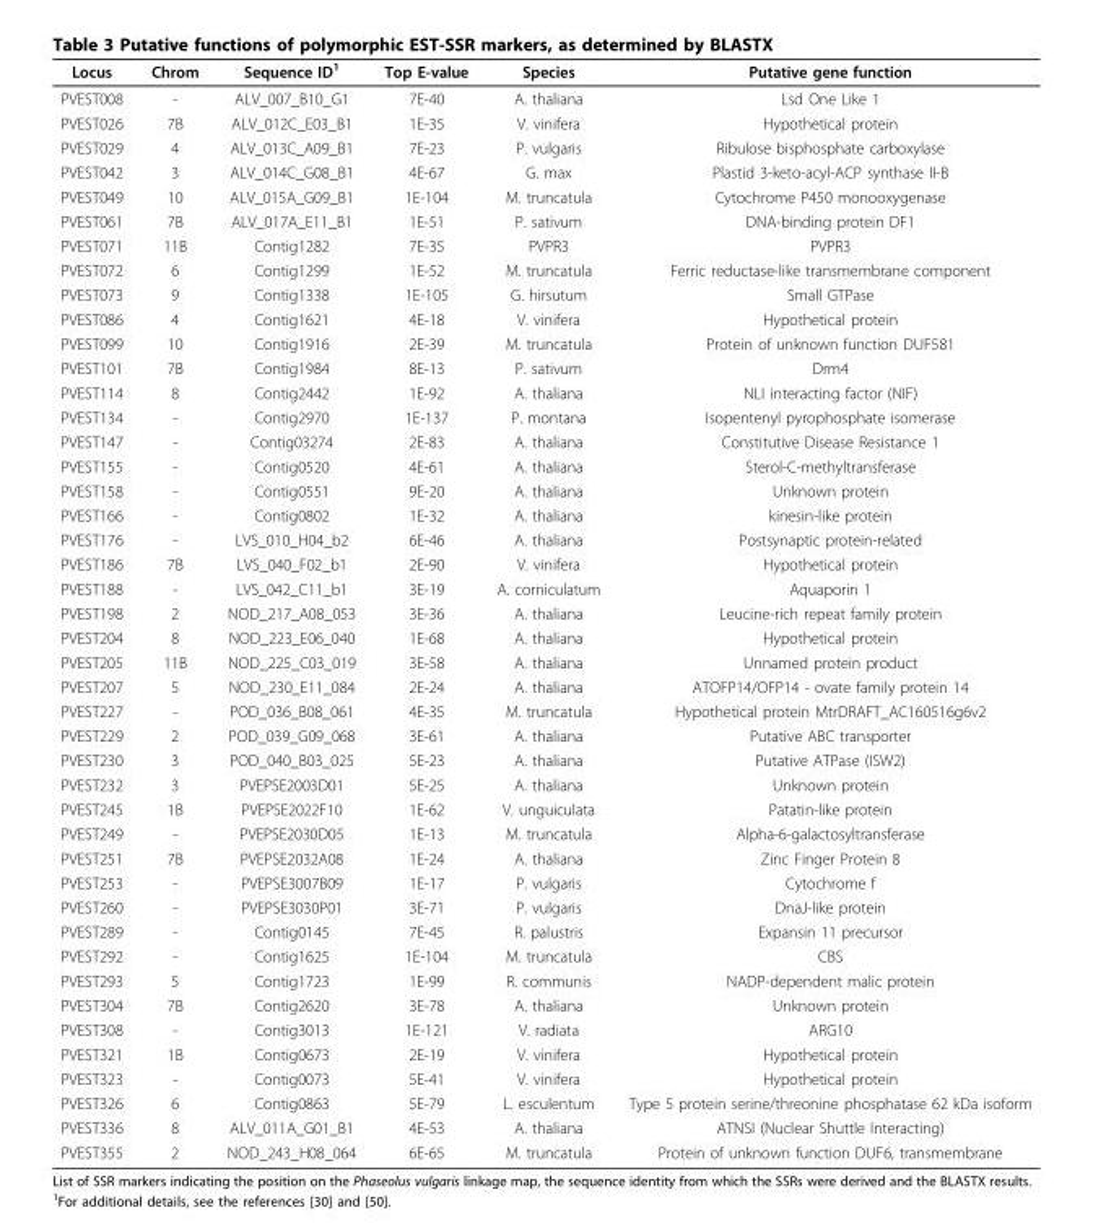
<table><thead><tr><td>Locus</td><td>Chrom</td><td>Sequence ID<sup>1</sup></td><td>Top E-value</td><td>Species</td><td>Putative gene function</td></tr></thead><tbody><tr><td>PVEST008</td><td>-</td><td>ALV_007_B10_G1</td><td>7E-40</td><td>A. thaliana</td><td>Lsd One Like 1</td></tr><tr><td>PVEST026</td><td>7B</td><td>ALV_012C_E03_B1</td><td>1E-35</td><td>V. vinifera</td><td>Hypothetical protein</td></tr><tr><td>PVEST029</td><td>4</td><td>ALV_013C_A09_B1</td><td>7E-23</td><td>P. vulgaris</td><td>Ribulose bisphosphate carboxylase</td></tr><tr><td>PVEST042</td><td>3</td><td>ALV_014C_G08_B1</td><td>4E-67</td><td>G. max</td><td>Plastid 3-keto-acyl-ACP synthase II-B</td></tr><tr><td>PVEST049</td><td>10</td><td>ALV_015A_G09_B1</td><td>1E-104</td><td>M. truncatula</td><td>Cytochrome P450 monooxygenase</td></tr><tr><td>PVEST061</td><td>7B</td><td>ALV_017A_E11_B1</td><td>1E-51</td><td>P. sativum</td><td>DNA-binding protein DF1</td></tr><tr><td>PVEST071</td><td>11B</td><td>Contig1282</td><td>7E-35</td><td>PVPR3</td><td>PVPR3</td></tr><tr><td>PVEST072</td><td>6</td><td>Contig1299</td><td>1E-52</td><td>M. truncatula</td><td>Ferric reductase-like transmembrane component</td></tr><tr><td>PVEST073</td><td>9</td><td>Contig1338</td><td>1E-105</td><td>G. hirsutum</td><td>Small GTPase</td></tr><tr><td>PVEST086</td><td>4</td><td>Contig1621</td><td>4E-18</td><td>V. vinifera</td><td>Hypothetical protein</td></tr><tr><td>PVEST099</td><td>10</td><td>Contig1916</td><td>2E-39</td><td>M. truncatula</td><td>Protein of unknown function DUF581</td></tr><tr><td>PVEST101</td><td>7B</td><td>Contig1984</td><td>8E-13</td><td>P. sativum</td><td>Drm4</td></tr><tr><td>PVEST114</td><td>8</td><td>Contig2442</td><td>1E-92</td><td>A. thaliana</td><td>NLI interacting factor (NIF)</td></tr><tr><td>PVEST134</td><td>-</td><td>Contig2970</td><td>1E-137</td><td>P. montana</td><td>Isopentenyl pyrophosphate isomerase</td></tr><tr><td>PVEST147</td><td>-</td><td>Contig03274</td><td>2E-83</td><td>A. thaliana</td><td>Constitutive Disease Resistance 1</td></tr><tr><td>PVEST155</td><td>-</td><td>Contig0520</td><td>4E-61</td><td>A. thaliana</td><td>Sterol-C-methyltransferase</td></tr><tr><td>PVEST158</td><td>-</td><td>Contig0551</td><td>9E-20</td><td>A. thaliana</td><td>Unknown protein</td></tr><tr><td>PVEST166</td><td>-</td><td>Contig0802</td><td>1E-32</td><td>A. thaliana</td><td>kinesin-like protein</td></tr><tr><td>PVEST176</td><td>-</td><td>LVS_010_H04_b2</td><td>6E-46</td><td>A. thaliana</td><td>Postsynaptic protein-related</td></tr><tr><td>PVEST186</td><td>7B</td><td>LVS_040_F02_b1</td><td>2E-90</td><td>V. vinifera</td><td>Hypothetical protein</td></tr><tr><td>PVEST188</td><td>-</td><td>LVS_042_C11_b1</td><td>3E-19</td><td>A. corniculatum</td><td>Aquaporin 1</td></tr><tr><td>PVEST198</td><td>2</td><td>NOD_217_A08_053</td><td>3E-36</td><td>A. thaliana</td><td>Leucine-rich repeat family protein</td></tr><tr><td>PVEST204</td><td>8</td><td>NOD_223_E06_040</td><td>1E-68</td><td>A. thaliana</td><td>Hypothetical protein</td></tr><tr><td>PVEST205</td><td>11B</td><td>NOD_225_C03_019</td><td>3E-58</td><td>A. thaliana</td><td>Unnamed protein product</td></tr><tr><td>PVEST207</td><td>5</td><td>NOD_230_E11_084</td><td>2E-24</td><td>A. thaliana</td><td>ATOFP14/OFP14 - ovate family protein 14</td></tr><tr><td>PVEST227</td><td>-</td><td>POD_036_B08_061</td><td>4E-35</td><td>M. truncatula</td><td>Hypothetical protein MtrDRAFT_AC160516g6v2</td></tr><tr><td>PVEST229</td><td>2</td><td>POD_039_G09_068</td><td>3E-61</td><td>A. thaliana</td><td>Putative ABC transporter</td></tr><tr><td>PVEST230</td><td>3</td><td>POD_040_B03_025</td><td>5E-23</td><td>A. thaliana</td><td>Putative ATPase (ISW2)</td></tr><tr><td>PVEST232</td><td>3</td><td>PVEPSE2003D01</td><td>5E-25</td><td>A. thaliana</td><td>Unknown protein</td></tr><tr><td>PVEST245</td><td>1B</td><td>PVEPSE2022F10</td><td>1E-62</td><td>V. unguiculata</td><td>Patatin-like protein</td></tr><tr><td>PVEST249</td><td>-</td><td>PVEPSE2030D05</td><td>1E-13</td><td>M. truncatula</td><td>Alpha-6-galactosyltransferase</td></tr><tr><td>PVEST251</td><td>7B</td><td>PVEPSE2032A08</td><td>1E-24</td><td>A. thaliana</td><td>Zinc Finger Protein 8</td></tr><tr><td>PVEST253</td><td>-</td><td>PVEPSE3007B09</td><td>1E-17</td><td>P. vulgaris</td><td>Cytochrome f</td></tr><tr><td>PVEST260</td><td>-</td><td>PVEPSE3030P01</td><td>3E-71</td><td>P. vulgaris</td><td>DnaJ-like protein</td></tr><tr><td>PVEST289</td><td>-</td><td>Contig0145</td><td>7E-45</td><td>R. palustris</td><td>Expansin 11 precursor</td></tr><tr><td>PVEST292</td><td>-</td><td>Contig1625</td><td>1E-104</td><td>M. truncatula</td><td>CBS</td></tr><tr><td>PVEST293</td><td>5</td><td>Contig1723</td><td>1E-99</td><td>R. communis</td><td>NADP-dependent malic protein</td></tr><tr><td>PVEST304</td><td>7B</td><td>Contig2620</td><td>3E-78</td><td>A. thaliana</td><td>Unknown protein</td></tr><tr><td>PVEST308</td><td>-</td><td>Contig3013</td><td>1E-121</td><td>V. radiata</td><td>ARG10</td></tr><tr><td>PVEST321</td><td>1B</td><td>Contig0673</td><td>2E-19</td><td>V. vinifera</td><td>Hypothetical protein</td></tr><tr><td>PVEST323</td><td>-</td><td>Contig0073</td><td>5E-41</td><td>V. vinifera</td><td>Hypothetical protein</td></tr><tr><td>PVEST326</td><td>6</td><td>Contig0863</td><td>5E-79</td><td>L. esculentum</td><td>Type 5 protein serine/threonine phosphatase 62 kDa isoform</td></tr><tr><td>PVEST336</td><td>8</td><td>ALV_011A_G01_B1</td><td>4E-53</td><td>A. thaliana</td><td>ATNSI (Nuclear Shuttle Interacting)</td></tr><tr><td>PVEST355</td><td>2</td><td>NOD_243_H08_064</td><td>6E-65</td><td>M. truncatula</td><td>Protein of unknown function DUF6, transmembrane</td></tr></tbody></table>